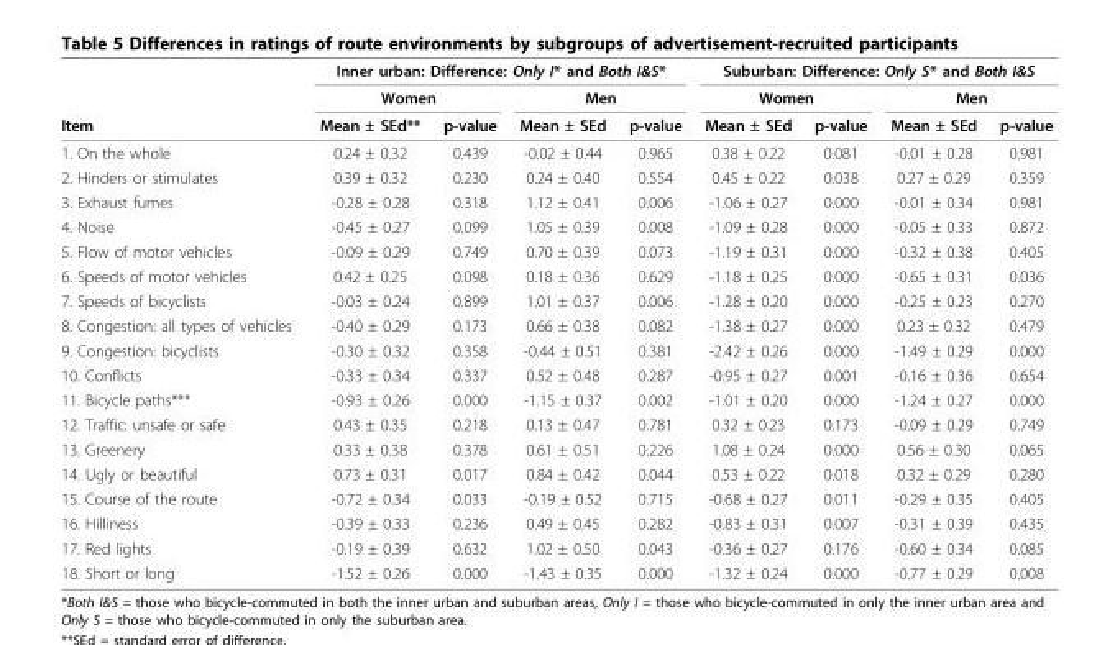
<table><thead><tr><td rowspan="3">Item</td><td colspan="4">Inner urban: Difference: Only I* and Both I&amp;S*</td><td colspan="4">Suburban: Difference: Only S* and Both I&amp;S</td></tr><tr><td colspan="2">Women</td><td colspan="2">Men</td><td colspan="2">Women</td><td colspan="2">Men</td></tr><tr><td>Mean ± SEd**</td><td>p-value</td><td>Mean ± SEd</td><td>p-value</td><td>Mean ± SEd</td><td>p-value</td><td>Mean ± SEd</td><td>p-value</td></tr></thead><tbody><tr><td>1. On the whole</td><td>0.24 ± 0.32</td><td>0.439</td><td>-0.02 ± 0.44</td><td>0.965</td><td>0.38 ± 0.22</td><td>0.081</td><td>-0.01 ± 0.28</td><td>0.981</td></tr><tr><td>2. Hinders or stimulates</td><td>0.39 ± 0.32</td><td>0.230</td><td>0.24 ± 0.40</td><td>0.554</td><td>0.45 ± 0.22</td><td>0.038</td><td>0.27 ± 0.29</td><td>0.359</td></tr><tr><td>3. Exhaust fumes</td><td>-0.28 ± 0.28</td><td>0.318</td><td>1.12 ± 0.41</td><td>0.006</td><td>-1.06 ± 0.27</td><td>0.000</td><td>-0.01 ± 0.34</td><td>0.981</td></tr><tr><td>4. Noise</td><td>-0.45 ± 0.27</td><td>0.099</td><td>1.05 ± 0.39</td><td>0.008</td><td>-1.09 ± 0.28</td><td>0.000</td><td>-0.05 ± 0.33</td><td>0.872</td></tr><tr><td>5. Flow of motor vehicles</td><td>-0.09 ± 0.29</td><td>0.749</td><td>0.70 ± 0.39</td><td>0.073</td><td>-1.19 ± 0.31</td><td>0.000</td><td>-0.32 ± 0.38</td><td>0.405</td></tr><tr><td>6. Speeds of motor vehicles</td><td>0.42 ± 0.25</td><td>0.098</td><td>0.18 ± 0.36</td><td>0.629</td><td>-1.18 ± 0.25</td><td>0.000</td><td>-0.65 ± 0.31</td><td>0.036</td></tr><tr><td>7. Speeds of bicyclists</td><td>-0.03 ± 0.24</td><td>0.899</td><td>1.01 ± 0.37</td><td>0.006</td><td>-1.28 ± 0.20</td><td>0.000</td><td>-0.25 ± 0.23</td><td>0.270</td></tr><tr><td>8. Congestion: all types of vehicles</td><td>-0.40 ± 0.29</td><td>0.173</td><td>0.66 ± 0.38</td><td>0.082</td><td>-1.38 ± 0.27</td><td>0.000</td><td>0.23 ± 0.32</td><td>0.479</td></tr><tr><td>9. Congestion: bicyclists</td><td>-0.30 ± 0.32</td><td>0.358</td><td>-0.44 ± 0.51</td><td>0.381</td><td>-2.42 ± 0.26</td><td>0.000</td><td>-1.49 ± 0.29</td><td>0.000</td></tr><tr><td>10. Conflicts</td><td>-0.33 ± 0.34</td><td>0.337</td><td>0.52 ± 0.48</td><td>0.287</td><td>-0.95 ± 0.27</td><td>0.001</td><td>-0.16 ± 0.36</td><td>0.654</td></tr><tr><td>11. Bicycle paths***</td><td>-0.93 ± 0.26</td><td>0.000</td><td>-1.15 ± 0.37</td><td>0.002</td><td>-1.01 ± 0.20</td><td>0.000</td><td>-1.24 ± 0.27</td><td>0.000</td></tr><tr><td>12. Traffic: unsafe or safe</td><td>0.43 ± 0.35</td><td>0.218</td><td>0.13 ± 0.47</td><td>0.781</td><td>0.32 ± 0.23</td><td>0.173</td><td>-0.09 ± 0.29</td><td>0.749</td></tr><tr><td>13. Greenery</td><td>0.33 ± 0.38</td><td>0.378</td><td>0.61 ± 0.51</td><td>0.226</td><td>1.08 ± 0.24</td><td>0.000</td><td>0.56 ± 0.30</td><td>0.065</td></tr><tr><td>14. Ugly or beautiful</td><td>0.73 ± 0.31</td><td>0.017</td><td>0.84 ± 0.42</td><td>0.044</td><td>0.53 ± 0.22</td><td>0.018</td><td>0.32 ± 0.29</td><td>0.280</td></tr><tr><td>15. Course of the route</td><td>-0.72 ± 0.34</td><td>0.033</td><td>-0.19 ± 0.52</td><td>0.715</td><td>-0.68 ± 0.27</td><td>0.011</td><td>-0.29 ± 0.35</td><td>0.405</td></tr><tr><td>16. Hilliness</td><td>-0.39 ± 0.33</td><td>0.236</td><td>0.49 ± 0.45</td><td>0.282</td><td>-0.83 ± 0.31</td><td>0.007</td><td>-0.31 ± 0.39</td><td>0.435</td></tr><tr><td>17. Red lights</td><td>-0.19 ± 0.39</td><td>0.632</td><td>1.02 ± 0.50</td><td>0.043</td><td>-0.36 ± 0.27</td><td>0.176</td><td>-0.60 ± 0.34</td><td>0.085</td></tr><tr><td>18. Short or long</td><td>-1.52 ± 0.26</td><td>0.000</td><td>-1.43 ± 0.35</td><td>0.000</td><td>-1.32 ± 0.24</td><td>0.000</td><td>-0.77 ± 0.29</td><td>0.008</td></tr></tbody></table>